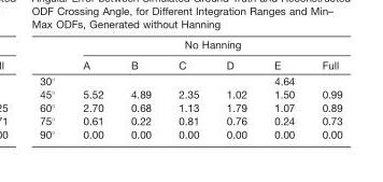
<table><thead><tr><td rowspan="2"></td><td colspan="6">No Hanning</td></tr><tr><td>A</td><td>B</td><td>C</td><td>D</td><td>E</td><td>Full</td></tr></thead><tbody><tr><td>30°</td><td></td><td></td><td></td><td></td><td>4.64</td><td></td></tr><tr><td>45°</td><td>5.52</td><td>4.89</td><td>2.35</td><td>1.02</td><td>1.50</td><td>0.99</td></tr><tr><td>60°</td><td>2.70</td><td>0.68</td><td>1.13</td><td>1.79</td><td>1.07</td><td>0.89</td></tr><tr><td>75°</td><td>0.61</td><td>0.22</td><td>0.81</td><td>0.76</td><td>0.24</td><td>0.73</td></tr><tr><td>90°</td><td>0.00</td><td>0.00</td><td>0.00</td><td>0.00</td><td>0.00</td><td>0.00</td></tr></tbody></table>